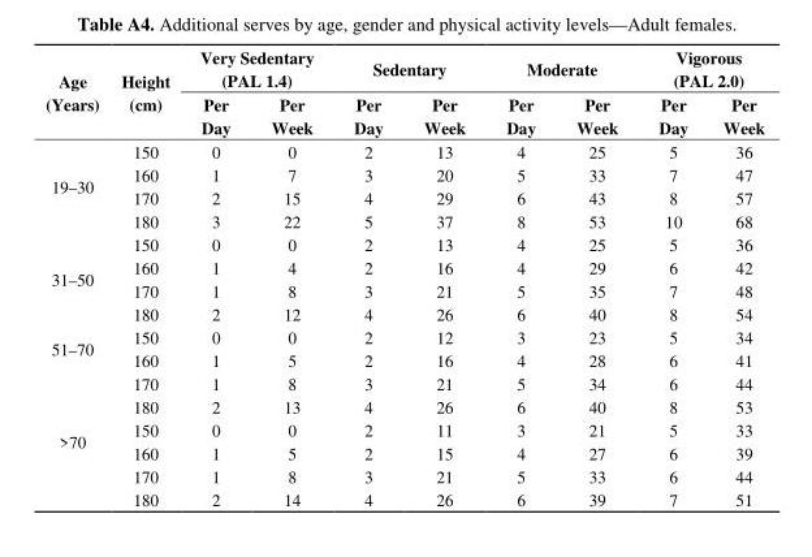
<table><thead><tr><td rowspan="2">Age (Years)</td><td rowspan="2">Height (cm)</td><td colspan="2">Very Sedentary (PAL 1.4)</td><td colspan="2">Sedentary</td><td colspan="2">Moderate</td><td colspan="2">Vigorous (PAL 2.0)</td></tr><tr><td>Per Day</td><td>Per Week</td><td>Per Day</td><td>Per Week</td><td>Per Day</td><td>Per Week</td><td>Per Day</td><td>Per Week</td></tr></thead><tbody><tr><td rowspan="4">19–30</td><td>150</td><td>0</td><td>0</td><td>2</td><td>13</td><td>4</td><td>25</td><td>5</td><td>36</td></tr><tr><td>160</td><td>1</td><td>7</td><td>3</td><td>20</td><td>5</td><td>33</td><td>7</td><td>47</td></tr><tr><td>170</td><td>2</td><td>15</td><td>4</td><td>29</td><td>6</td><td>43</td><td>8</td><td>57</td></tr><tr><td>180</td><td>3</td><td>22</td><td>5</td><td>37</td><td>8</td><td>53</td><td>10</td><td>68</td></tr><tr><td rowspan="4">31–50</td><td>150</td><td>0</td><td>0</td><td>2</td><td>13</td><td>4</td><td>25</td><td>5</td><td>36</td></tr><tr><td>160</td><td>1</td><td>4</td><td>2</td><td>16</td><td>4</td><td>29</td><td>6</td><td>42</td></tr><tr><td>170</td><td>1</td><td>8</td><td>3</td><td>21</td><td>5</td><td>35</td><td>7</td><td>48</td></tr><tr><td>180</td><td>2</td><td>12</td><td>4</td><td>26</td><td>6</td><td>40</td><td>8</td><td>54</td></tr><tr><td rowspan="2">51–70</td><td>150</td><td>0</td><td>0</td><td>2</td><td>12</td><td>3</td><td>23</td><td>5</td><td>34</td></tr><tr><td>160</td><td>1</td><td>5</td><td>2</td><td>16</td><td>4</td><td>28</td><td>6</td><td>41</td></tr><tr><td rowspan="6">&gt;70</td><td>170</td><td>1</td><td>8</td><td>3</td><td>21</td><td>5</td><td>34</td><td>6</td><td>44</td></tr><tr><td>180</td><td>2</td><td>13</td><td>4</td><td>26</td><td>6</td><td>40</td><td>8</td><td>53</td></tr><tr><td>150</td><td>0</td><td>0</td><td>2</td><td>11</td><td>3</td><td>21</td><td>5</td><td>33</td></tr><tr><td>160</td><td>1</td><td>5</td><td>2</td><td>15</td><td>4</td><td>27</td><td>6</td><td>39</td></tr><tr><td>170</td><td>1</td><td>8</td><td>3</td><td>21</td><td>5</td><td>33</td><td>6</td><td>44</td></tr><tr><td>180</td><td>2</td><td>14</td><td>4</td><td>26</td><td>6</td><td>39</td><td>7</td><td>51</td></tr></tbody></table>